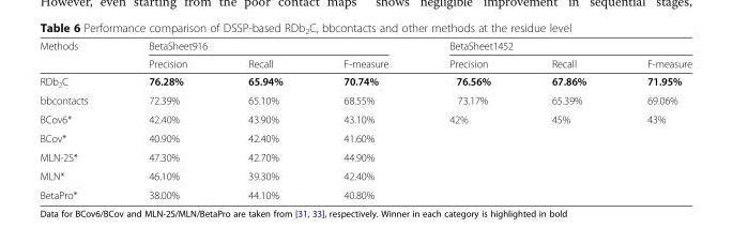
<table><thead><tr><td rowspan="2">Methods</td><td colspan="3">BetaSheet916</td><td colspan="3">BetaSheet1452</td></tr><tr><td>Precision</td><td>Recall</td><td>F-measure</td><td>Precision</td><td>Recall</td><td>F-measure</td></tr></thead><tbody><tr><td>RDb<sub>2</sub>C</td><td>76.28%</td><td>65.94%</td><td>70.74%</td><td>76.56%</td><td>67.86%</td><td>71.95%</td></tr><tr><td>bbcontacts</td><td>72.39%</td><td>65.10%</td><td>68.55%</td><td>73.17%</td><td>65.39%</td><td>69.06%</td></tr><tr><td>BCov6*</td><td>42.40%</td><td>43.90%</td><td>43.10%</td><td>42%</td><td>45%</td><td>43%</td></tr><tr><td>BCov*</td><td>40.90%</td><td>42.40%</td><td>41.60%</td><td colspan="3"></td></tr><tr><td>MLN-2S*</td><td>47.30%</td><td>42.70%</td><td>44.90%</td><td colspan="3"></td></tr><tr><td>MLN*</td><td>46.10%</td><td>39.30%</td><td>42.40%</td><td colspan="3"></td></tr><tr><td>BetaPro*</td><td>38.00%</td><td>44.10%</td><td>40.80%</td><td colspan="3"></td></tr></tbody></table>